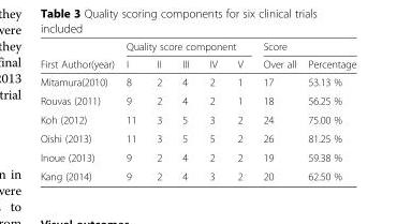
<table><thead><tr><td rowspan="2">First Author(year)</td><td colspan="5">Quality score component</td><td colspan="2">Score</td></tr><tr><td>I</td><td>II</td><td>III</td><td>IV</td><td>V</td><td>Over all</td><td>Percentage</td></tr></thead><tbody><tr><td>Mitamura(2010)</td><td>8</td><td>2</td><td>4</td><td>2</td><td>1</td><td>17</td><td>53.13 %</td></tr><tr><td>Rouvas (2011)</td><td>9</td><td>2</td><td>4</td><td>2</td><td>1</td><td>18</td><td>56.25 %</td></tr><tr><td>Koh (2012)</td><td>11</td><td>3</td><td>5</td><td>3</td><td>2</td><td>24</td><td>75.00 %</td></tr><tr><td>Oishi (2013)</td><td>11</td><td>3</td><td>5</td><td>5</td><td>2</td><td>26</td><td>81.25 %</td></tr><tr><td>Inoue (2013)</td><td>9</td><td>2</td><td>4</td><td>2</td><td>2</td><td>19</td><td>59.38 %</td></tr><tr><td>Kang (2014)</td><td>9</td><td>2</td><td>4</td><td>3</td><td>2</td><td>20</td><td>62.50 %</td></tr></tbody></table>